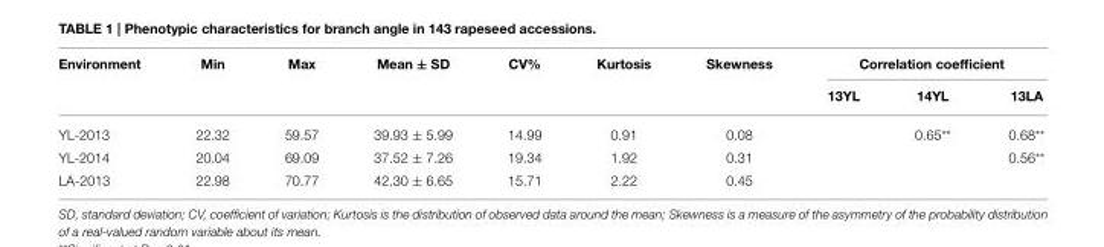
<table><thead><tr><td rowspan="2">Environment</td><td rowspan="2">Min</td><td rowspan="2">Max</td><td rowspan="2">Mean ± SD</td><td rowspan="2">CV%</td><td rowspan="2">Kurtosis</td><td rowspan="2">Skewness</td><td colspan="3">Correlation coefficient</td></tr><tr><td>13YL</td><td>14YL</td><td>13LA</td></tr></thead><tbody><tr><td>YL-2013</td><td>22.32</td><td>59.57</td><td>39.93 ± 5.99</td><td>14.99</td><td>0.91</td><td>0.08</td><td></td><td>0.65**</td><td>0.68**</td></tr><tr><td>YL-2014</td><td>20.04</td><td>69.09</td><td>37.52 ± 7.26</td><td>19.34</td><td>1.92</td><td>0.31</td><td></td><td></td><td>0.56**</td></tr><tr><td>LA-2013</td><td>22.98</td><td>70.77</td><td>42.30 ± 6.65</td><td>15.71</td><td>2.22</td><td>0.45</td><td></td><td></td><td></td></tr></tbody></table>